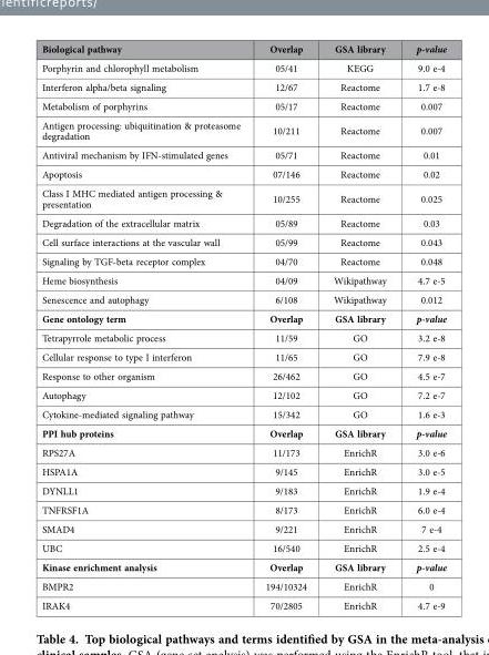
<table><thead><tr><td>Biological pathway</td><td>Overlap</td><td>GSA library</td><td>p-value</td></tr></thead><tbody><tr><td>Porphyrin and chlorophyll metabolism</td><td>05/41</td><td>KEGG</td><td>9.0 e-4</td></tr><tr><td>Interferon alpha/beta signaling</td><td>12/67</td><td>Reactome</td><td>1.7 e-8</td></tr><tr><td>Metabolism of porphyrins</td><td>05/17</td><td>Reactome</td><td>0.007</td></tr><tr><td>Antigen processing: ubiquitination &amp; proteasome degradation</td><td>10/211</td><td>Reactome</td><td>0.007</td></tr><tr><td>Antiviral mechanism by IFN-stimulated genes</td><td>05/71</td><td>Reactome</td><td>0.01</td></tr><tr><td>Apoptosis</td><td>07/146</td><td>Reactome</td><td>0.02</td></tr><tr><td>Class I MHC mediated antigen processing &amp; presentation</td><td>10/255</td><td>Reactome</td><td>0.025</td></tr><tr><td>Degradation of the extracellular matrix</td><td>05/89</td><td>Reactome</td><td>0.03</td></tr><tr><td>Cell surface interactions at the vascular wall</td><td>05/99</td><td>Reactome</td><td>0.043</td></tr><tr><td>Signaling by TGF-beta receptor complex</td><td>04/70</td><td>Reactome</td><td>0.048</td></tr><tr><td>Heme biosynthesis</td><td>04/09</td><td>Wikipathway</td><td>4.7 e-5</td></tr><tr><td>Senescence and autophagy</td><td>6/108</td><td>Wikipathway</td><td>0.012</td></tr><tr><td>Gene ontology term</td><td>Overlap</td><td>GSA library</td><td>p-value</td></tr><tr><td>Tetrapyrrole metabolic process</td><td>11/59</td><td>GO</td><td>3.2 e-8</td></tr><tr><td>Cellular response to type I interferon</td><td>11/65</td><td>GO</td><td>7.9 e-8</td></tr><tr><td>Response to other organism</td><td>26/462</td><td>GO</td><td>4.5 e-7</td></tr><tr><td>Autophagy</td><td>12/102</td><td>GO</td><td>7.2 e-7</td></tr><tr><td>Cytokine-mediated signaling pathway</td><td>15/342</td><td>GO</td><td>1.6 e-3</td></tr><tr><td>PPI hub proteins</td><td>Overlap</td><td>GSA library</td><td>p-value</td></tr><tr><td>RPS27A</td><td>11/173</td><td>EnrichR</td><td>3.0 e-6</td></tr><tr><td>HSPA1A</td><td>9/145</td><td>EnrichR</td><td>3.0 e-5</td></tr><tr><td>DYNLL1</td><td>9/183</td><td>EnrichR</td><td>1.9 e-4</td></tr><tr><td>TNFRSF1A</td><td>8/173</td><td>EnrichR</td><td>6.0 e-4</td></tr><tr><td>SMAD4</td><td>9/221</td><td>EnrichR</td><td>7 e-4</td></tr><tr><td>UBC</td><td>16/540</td><td>EnrichR</td><td>2.5 e-4</td></tr><tr><td>Kinase enrichment analysis</td><td>Overlap</td><td>GSA library</td><td>p-value</td></tr><tr><td>BMPR2</td><td>194/10324</td><td>EnrichR</td><td>0</td></tr><tr><td>IRAK4</td><td>70/2805</td><td>EnrichR</td><td>4.7 e-9</td></tr></tbody></table>